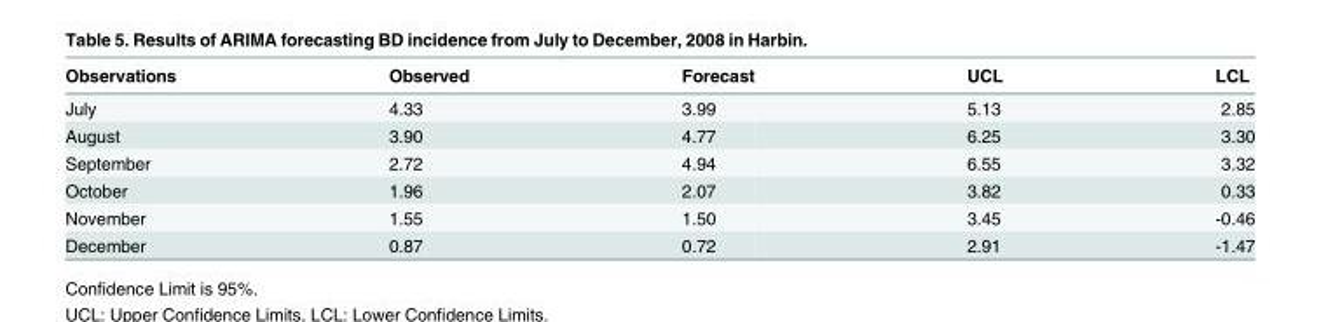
<table><thead><tr><td>Observations</td><td>Observed</td><td>Forecast</td><td>UCL</td><td>LCL</td></tr></thead><tbody><tr><td>July</td><td>4.33</td><td>3.99</td><td>5.13</td><td>2.85</td></tr><tr><td>August</td><td>3.90</td><td>4.77</td><td>6.25</td><td>3.30</td></tr><tr><td>September</td><td>2.72</td><td>4.94</td><td>6.55</td><td>3.32</td></tr><tr><td>October</td><td>1.96</td><td>2.07</td><td>3.82</td><td>0.33</td></tr><tr><td>November</td><td>1.55</td><td>1.50</td><td>3.45</td><td>-0.46</td></tr><tr><td>December</td><td>0.87</td><td>0.72</td><td>2.91</td><td>-1.47</td></tr></tbody></table>